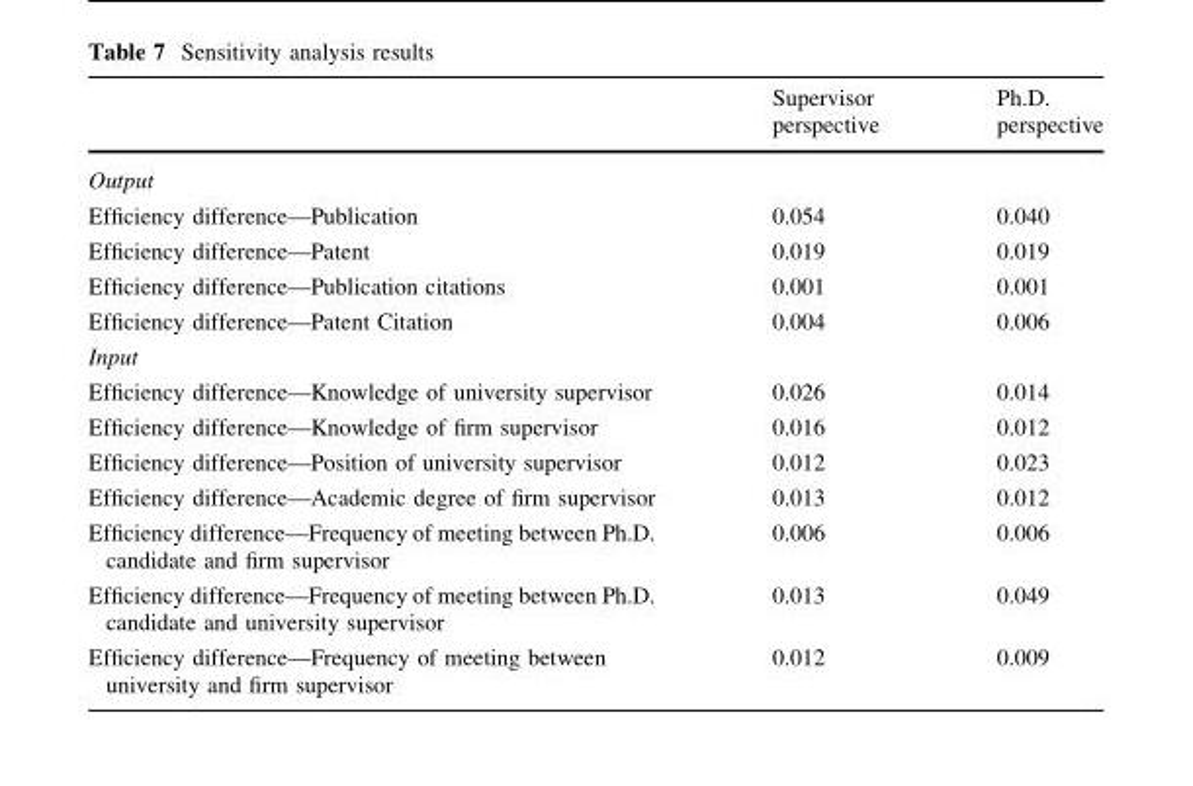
<table><thead><tr><td></td><td>Supervisor perspective</td><td>Ph.D. perspective</td></tr></thead><tbody><tr><td colspan="3">Output</td></tr><tr><td>Efficiency difference—Publication</td><td>0.054</td><td>0.040</td></tr><tr><td>Efficiency difference—Patent</td><td>0.019</td><td>0.019</td></tr><tr><td>Efficiency difference—Publication citations</td><td>0.001</td><td>0.001</td></tr><tr><td>Efficiency difference—Patent Citation</td><td>0.004</td><td>0.006</td></tr><tr><td colspan="3">Input</td></tr><tr><td>Efficiency difference—Knowledge of university supervisor</td><td>0.026</td><td>0.014</td></tr><tr><td>Efficiency difference—Knowledge of firm supervisor</td><td>0.016</td><td>0.012</td></tr><tr><td>Efficiency difference—Position of university supervisor</td><td>0.012</td><td>0.023</td></tr><tr><td>Efficiency difference—Academic degree of firm supervisor</td><td>0.013</td><td>0.012</td></tr><tr><td>Efficiency difference—Frequency of meeting between Ph.D. candidate and firm supervisor</td><td>0.006</td><td>0.006</td></tr><tr><td>Efficiency difference—Frequency of meeting between Ph.D. candidate and university supervisor</td><td>0.013</td><td>0.049</td></tr><tr><td>Efficiency difference—Frequency of meeting between university and firm supervisor</td><td>0.012</td><td>0.009</td></tr></tbody></table>